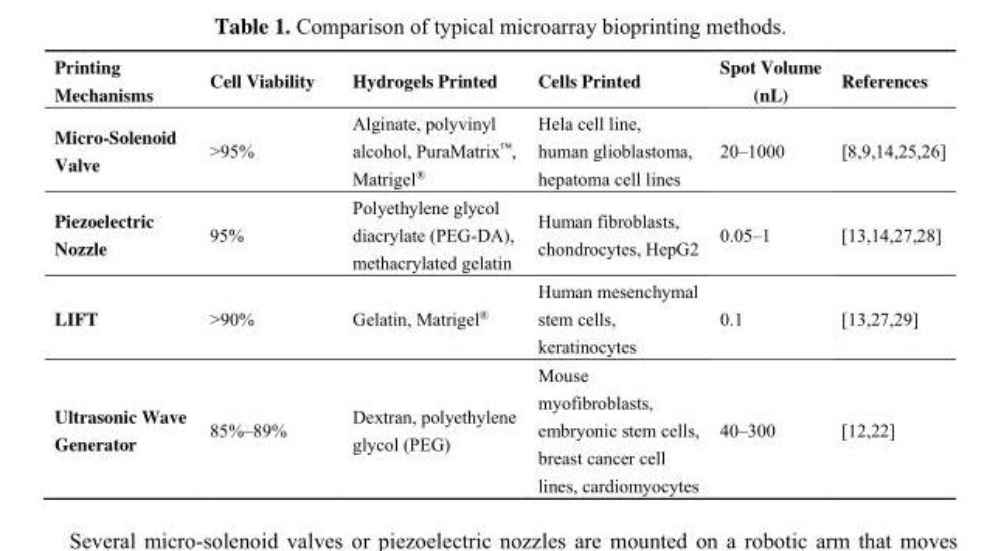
<table><thead><tr><td>Printing Mechanisms</td><td>Cell Viability</td><td>Hydrogels Printed</td><td>Cells Printed</td><td>Spot Volume (nL)</td><td>References</td></tr></thead><tbody><tr><td>Micro-Solenoid Valve</td><td>&gt;95%</td><td>Alginate, polyvinyl alcohol, PuraMatrix<sup>™</sup>, Matrigel<sup>®</sup></td><td>Hela cell line, human glioblastoma, hepatoma cell lines</td><td>20–1000</td><td>[8,9,14,25,26]</td></tr><tr><td>Piezoelectric Nozzle</td><td>95%</td><td>Polyethylene glycol diacrylate (PEG-DA), methacrylated gelatin</td><td>Human fibroblasts, chondrocytes, HepG2</td><td>0.05–1</td><td>[13,14,27,28]</td></tr><tr><td>LIFT</td><td>&gt;90%</td><td>Gelatin, Matrigel<sup>®</sup></td><td>Human mesenchymal stem cells, keratinocytes</td><td>0.1</td><td>[13,27,29]</td></tr><tr><td>Ultrasonic Wave Generator</td><td>85%–89%</td><td>Dextran, polyethylene glycol (PEG)</td><td>Mouse myofibroblasts, embryonic stem cells, breast cancer cell lines, cardiomyocytes</td><td>40–300</td><td>[12,22]</td></tr></tbody></table>